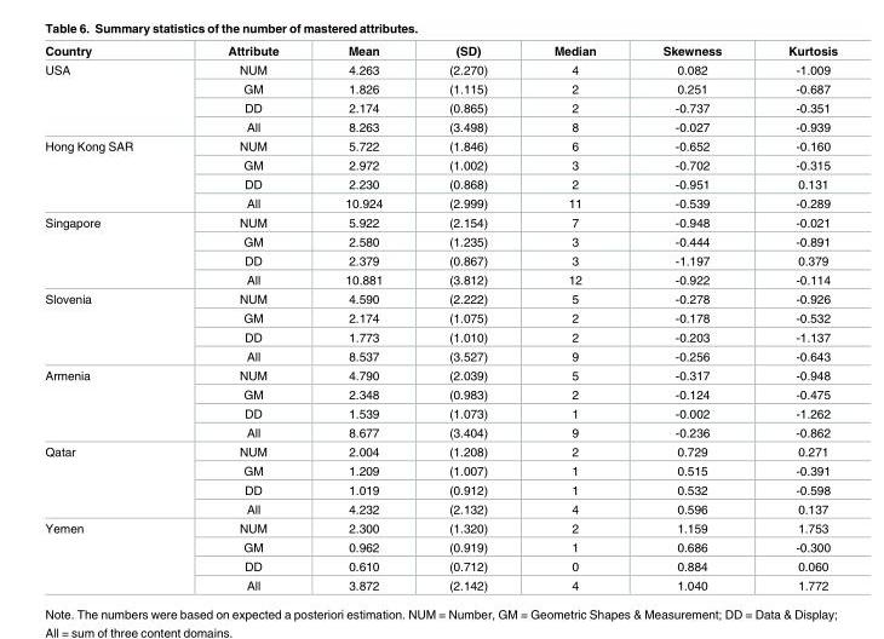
<table><thead><tr><td>Country</td><td>Attribute</td><td>Mean</td><td>(SD)</td><td>Median</td><td>Skewness</td><td>Kurtosis</td></tr></thead><tbody><tr><td rowspan="4">USA</td><td>NUM</td><td>4.263</td><td>(2.270)</td><td>4</td><td>0.082</td><td>-1.009</td></tr><tr><td>GM</td><td>1.826</td><td>(1.115)</td><td>2</td><td>0.251</td><td>-0.687</td></tr><tr><td>DD</td><td>2.174</td><td>(0.865)</td><td>2</td><td>-0.737</td><td>-0.351</td></tr><tr><td>All</td><td>8.263</td><td>(3.498)</td><td>8</td><td>-0.027</td><td>-0.939</td></tr><tr><td rowspan="4">Hong Kong SAR</td><td>NUM</td><td>5.722</td><td>(1.846)</td><td>6</td><td>-0.652</td><td>-0.160</td></tr><tr><td>GM</td><td>2.972</td><td>(1.002)</td><td>3</td><td>-0.702</td><td>-0.315</td></tr><tr><td>DD</td><td>2.230</td><td>(0.868)</td><td>2</td><td>-0.951</td><td>0.131</td></tr><tr><td>All</td><td>10.924</td><td>(2.999)</td><td>11</td><td>-0.539</td><td>-0.289</td></tr><tr><td rowspan="4">Singapore</td><td>NUM</td><td>5.922</td><td>(2.154)</td><td>7</td><td>-0.948</td><td>-0.021</td></tr><tr><td>GM</td><td>2.580</td><td>(1.235)</td><td>3</td><td>-0.444</td><td>-0.891</td></tr><tr><td>DD</td><td>2.379</td><td>(0.867)</td><td>3</td><td>-1.197</td><td>0.379</td></tr><tr><td>All</td><td>10.881</td><td>(3.812)</td><td>12</td><td>-0.922</td><td>-0.114</td></tr><tr><td rowspan="4">Slovenia</td><td>NUM</td><td>4.590</td><td>(2.222)</td><td>5</td><td>-0.278</td><td>-0.926</td></tr><tr><td>GM</td><td>2.174</td><td>(1.075)</td><td>2</td><td>-0.178</td><td>-0.532</td></tr><tr><td>DD</td><td>1.773</td><td>(1.010)</td><td>2</td><td>-0.203</td><td>-1.137</td></tr><tr><td>All</td><td>8.537</td><td>(3.527)</td><td>9</td><td>-0.256</td><td>-0.643</td></tr><tr><td rowspan="4">Armenia</td><td>NUM</td><td>4.790</td><td>(2.039)</td><td>5</td><td>-0.317</td><td>-0.948</td></tr><tr><td>GM</td><td>2.348</td><td>(0.983)</td><td>2</td><td>-0.124</td><td>-0.475</td></tr><tr><td>DD</td><td>1.539</td><td>(1.073)</td><td>1</td><td>-0.002</td><td>-1.262</td></tr><tr><td>All</td><td>8.677</td><td>(3.404)</td><td>9</td><td>-0.236</td><td>-0.862</td></tr><tr><td rowspan="4">Qatar</td><td>NUM</td><td>2.004</td><td>(1.208)</td><td>2</td><td>0.729</td><td>0.271</td></tr><tr><td>GM</td><td>1.209</td><td>(1.007)</td><td>1</td><td>0.515</td><td>-0.391</td></tr><tr><td>DD</td><td>1.019</td><td>(0.912)</td><td>1</td><td>0.532</td><td>-0.598</td></tr><tr><td>All</td><td>4.232</td><td>(2.132)</td><td>4</td><td>0.596</td><td>0.137</td></tr><tr><td rowspan="4">Yemen</td><td>NUM</td><td>2.300</td><td>(1.320)</td><td>2</td><td>1.159</td><td>1.753</td></tr><tr><td>GM</td><td>0.962</td><td>(0.919)</td><td>1</td><td>0.686</td><td>-0.300</td></tr><tr><td>DD</td><td>0.610</td><td>(0.712)</td><td>0</td><td>0.884</td><td>0.060</td></tr><tr><td>All</td><td>3.872</td><td>(2.142)</td><td>4</td><td>1.040</td><td>1.772</td></tr></tbody></table>